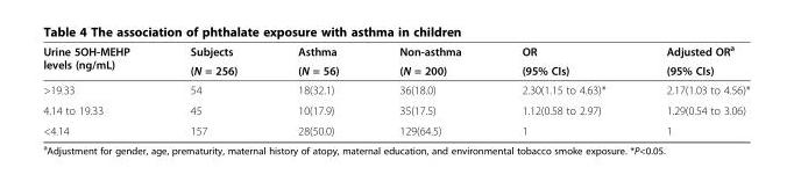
<table><thead><tr><td rowspan="2">Urine 5OH-MEHP levels (ng/mL)</td><td rowspan="2">Subjects (N = 256)</td><td rowspan="2">Asthma (N = 56)</td><td rowspan="2">Non-asthma (N = 200)</td><td rowspan="2">OR (95% CIs)</td><td rowspan="2">Adjusted OR<sup>a</sup> (95% CIs)</td></tr><tr></tr></thead><tbody><tr><td>&gt;19.33</td><td>54</td><td>18(32.1)</td><td>36(18.0)</td><td>2.30(1.15 to 4.63)*</td><td>2.17(1.03 to 4.56)*</td></tr><tr><td>4.14 to 19.33</td><td>45</td><td>10(17.9)</td><td>35(17.5)</td><td>1.12(0.58 to 2.97)</td><td>1.29(0.54 to 3.06)</td></tr><tr><td>&lt;4.14</td><td>157</td><td>28(50.0)</td><td>129(64.5)</td><td>1</td><td>1</td></tr></tbody></table>